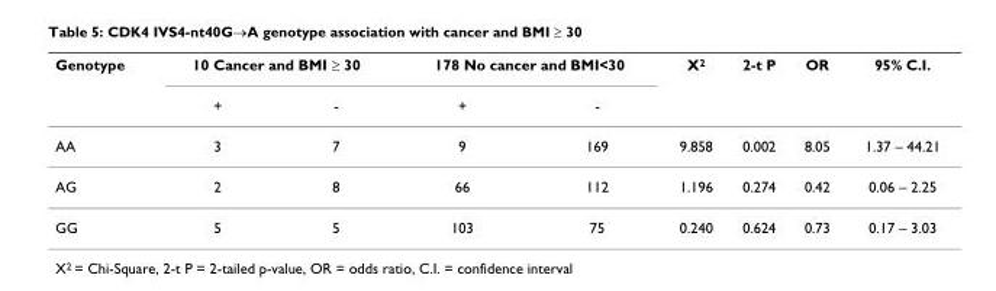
<table><thead><tr><td rowspan="2">Genotype</td><td colspan="2">10 Cancer and BMI ≥ 30</td><td colspan="2">178 No cancer and BMI&lt;30</td><td rowspan="2">X<sup>2</sup></td><td rowspan="2">2-t P</td><td rowspan="2">OR</td><td rowspan="2">95% C.I.</td></tr><tr><td>+</td><td>-</td><td>+</td><td>-</td></tr></thead><tbody><tr><td>AA</td><td>3</td><td>7</td><td>9</td><td>169</td><td>9.858</td><td>0.002</td><td>8.05</td><td>1.37 – 44.21</td></tr><tr><td>AG</td><td>2</td><td>8</td><td>66</td><td>112</td><td>1.196</td><td>0.274</td><td>0.42</td><td>0.06 – 2.25</td></tr><tr><td>GG</td><td>5</td><td>5</td><td>103</td><td>75</td><td>0.240</td><td>0.624</td><td>0.73</td><td>0.17 – 3.03</td></tr></tbody></table>